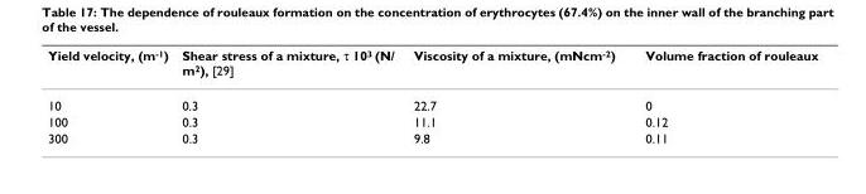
<table><thead><tr><td>Yield velocity, (m<sup>-1</sup>)</td><td>Shear stress of a mixture, τ 10<sup>3</sup> (N/ m<sup>2</sup>), [29]</td><td>Viscosity of a mixture, (mNcm<sup>-2</sup>)</td><td>Volume fraction of rouleaux</td></tr></thead><tbody><tr><td>10</td><td>0.3</td><td>22.7</td><td>0</td></tr><tr><td>100</td><td>0.3</td><td>11.1</td><td>0.12</td></tr><tr><td>300</td><td>0.3</td><td>9.8</td><td>0.11</td></tr></tbody></table>